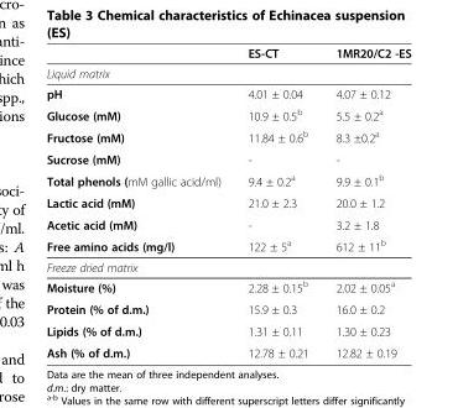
<table><thead><tr><td></td><td>ES-CT</td><td>1MR20/C2 -ES</td></tr></thead><tbody><tr><td colspan="3">Liquid matrix</td></tr><tr><td>pH</td><td>4.01 ± 0.04</td><td>4.07 ± 0.12</td></tr><tr><td>Glucose (mM)</td><td>10.9 ± 0.5<sup>b</sup></td><td>5.5 ± 0.2<sup>a</sup></td></tr><tr><td>Fructose (mM)</td><td>11.84 ± 0.6<sup>b</sup></td><td>8.3 ±0.2<sup>a</sup></td></tr><tr><td>Sucrose (mM)</td><td>-</td><td>-</td></tr><tr><td>Total phenols (mM gallic acid/ml)</td><td>9.4 ± 0.2<sup>a</sup></td><td>9.9 ± 0.1<sup>b</sup></td></tr><tr><td>Lactic acid (mM)</td><td>21.0 ± 2.3</td><td>20.0 ± 1.2</td></tr><tr><td>Acetic acid (mM)</td><td>-</td><td>3.2 ± 1.8</td></tr><tr><td>Free amino acids (mg/l)</td><td>122 ± 5<sup>a</sup></td><td>612 ± 11<sup>b</sup></td></tr><tr><td colspan="3">Freeze dried matrix</td></tr><tr><td>Moisture (%)</td><td>2.28 ± 0.15<sup>b</sup></td><td>2.02 ± 0.05<sup>a</sup></td></tr><tr><td>Protein (% of d.m.)</td><td>15.9 ± 0.3</td><td>16.0 ± 0.2</td></tr><tr><td>Lipids (% of d.m.)</td><td>1.31 ± 0.11</td><td>1.30 ± 0.23</td></tr><tr><td>Ash (% of d.m.)</td><td>12.78 ± 0.21</td><td>12.82 ± 0.19</td></tr></tbody></table>